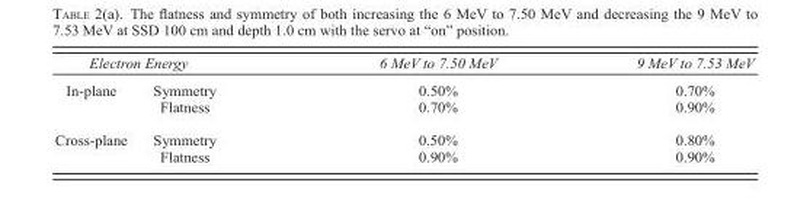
<table><thead><tr><td colspan="2">Electron Energy</td><td rowspan="2">6 MeV to 7.50 MeV 0.50%</td><td rowspan="2">9 MeV to 7.53 MeV 0.70%</td></tr><tr><td>In-plane</td><td>Symmetry</td></tr></thead><tbody><tr><td></td><td>Flatness</td><td>0.70%</td><td>0.90%</td></tr><tr><td rowspan="2">Cross-plane</td><td>Symmetry</td><td>0.50%</td><td>0.80%</td></tr><tr><td>Flatness</td><td>0.90%</td><td>0.90%</td></tr></tbody></table>